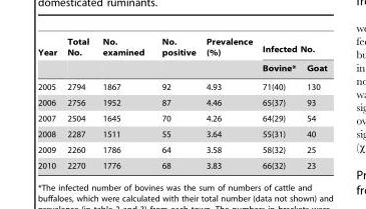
<table><thead><tr><td rowspan="2">Year</td><td rowspan="2">Total No.</td><td rowspan="2">No. examined</td><td rowspan="2">No. positive</td><td rowspan="2">Prevalence (%)</td><td colspan="2">Infected No.</td></tr><tr><td>Bovine*</td><td>Goat</td></tr></thead><tbody><tr><td>2005</td><td>2794</td><td>1867</td><td>92</td><td>4.93</td><td>71(40)</td><td>130</td></tr><tr><td>2006</td><td>2756</td><td>1952</td><td>87</td><td>4.46</td><td>65(37)</td><td>93</td></tr><tr><td>2007</td><td>2504</td><td>1645</td><td>70</td><td>4.26</td><td>64(29)</td><td>54</td></tr><tr><td>2008</td><td>2287</td><td>1511</td><td>55</td><td>3.64</td><td>55(31)</td><td>40</td></tr><tr><td>2009</td><td>2260</td><td>1786</td><td>64</td><td>3.58</td><td>58(32)</td><td>25</td></tr><tr><td>2010</td><td>2270</td><td>1776</td><td>68</td><td>3.83</td><td>66(32)</td><td>23</td></tr></tbody></table>